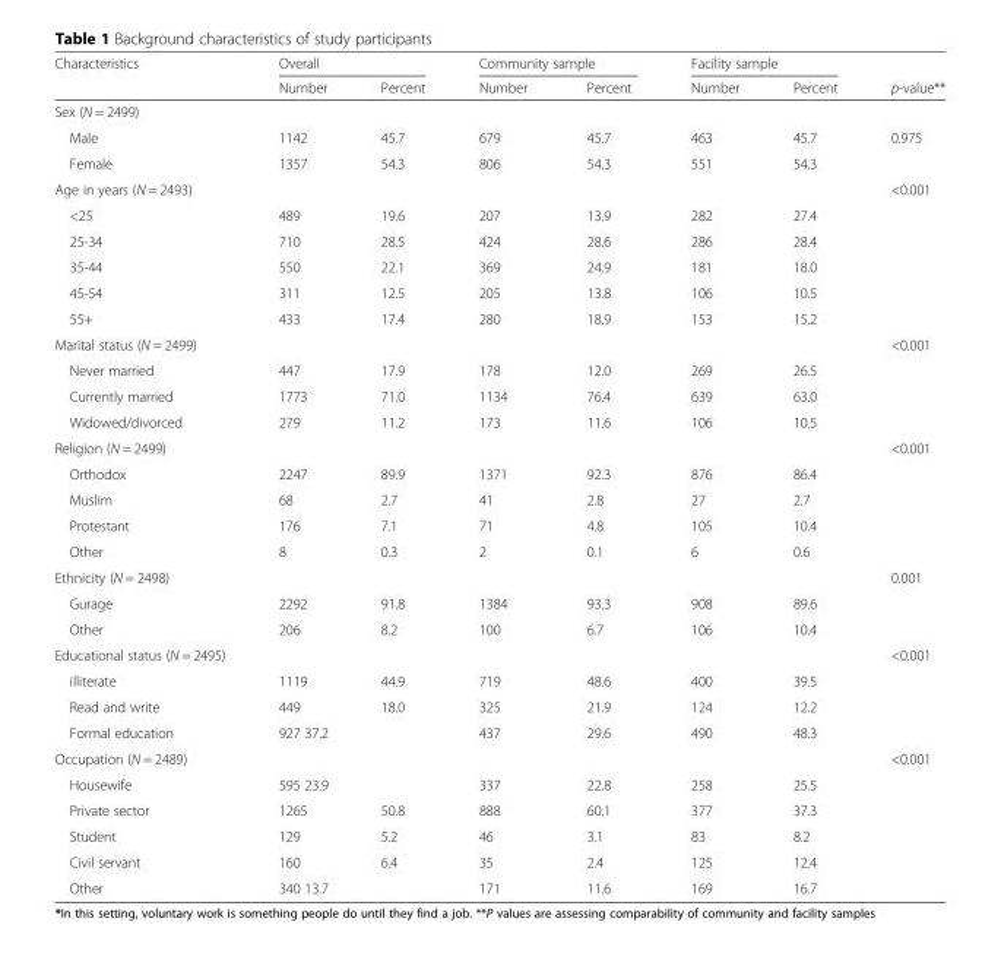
<table><thead><tr><td rowspan="2">Characteristics</td><td colspan="2">Overall</td><td colspan="2">Community sample</td><td colspan="2">Facility sample</td><td rowspan="2">p-value**</td></tr><tr><td>Number</td><td>Percent</td><td>Number</td><td>Percent</td><td>Number</td><td>Percent</td></tr></thead><tbody><tr><td colspan="8">Sex (N = 2499)</td></tr><tr><td>Male</td><td>1142</td><td>45.7</td><td>679</td><td>45.7</td><td>463</td><td>45.7</td><td>0.975</td></tr><tr><td>Female</td><td>1357</td><td>54.3</td><td>806</td><td>54.3</td><td>551</td><td>54.3</td><td></td></tr><tr><td>Age in years (N = 2493)</td><td></td><td></td><td></td><td></td><td></td><td></td><td>&lt;0.001</td></tr><tr><td>&lt;25</td><td>489</td><td>19.6</td><td>207</td><td>13.9</td><td>282</td><td>27.4</td><td></td></tr><tr><td>25-34</td><td>710</td><td>28.5</td><td>424</td><td>28.6</td><td>286</td><td>28.4</td><td></td></tr><tr><td>35-44</td><td>550</td><td>22.1</td><td>369</td><td>24.9</td><td>181</td><td>18.0</td><td></td></tr><tr><td>45-54</td><td>311</td><td>12.5</td><td>205</td><td>13.8</td><td>106</td><td>10.5</td><td></td></tr><tr><td>55+</td><td>433</td><td>17.4</td><td>280</td><td>18.9</td><td>153</td><td>15.2</td><td></td></tr><tr><td>Marital status (N = 2499)</td><td></td><td></td><td></td><td></td><td></td><td></td><td>&lt;0.001</td></tr><tr><td>Never married</td><td>447</td><td>17.9</td><td>178</td><td>12.0</td><td>269</td><td>26.5</td><td></td></tr><tr><td>Currently married</td><td>1773</td><td>71.0</td><td>1134</td><td>76.4</td><td>639</td><td>63.0</td><td></td></tr><tr><td>Widowed/divorced</td><td>279</td><td>11.2</td><td>173</td><td>11.6</td><td>106</td><td>10.5</td><td></td></tr><tr><td>Religion (N = 2499)</td><td></td><td></td><td></td><td></td><td></td><td></td><td>&lt;0.001</td></tr><tr><td>Orthodox</td><td>2247</td><td>89.9</td><td>1371</td><td>92.3</td><td>876</td><td>86.4</td><td></td></tr><tr><td>Muslim</td><td>68</td><td>2.7</td><td>41</td><td>2.8</td><td>27</td><td>2.7</td><td></td></tr><tr><td>Protestant</td><td>176</td><td>7.1</td><td>71</td><td>4.8</td><td>105</td><td>10.4</td><td></td></tr><tr><td>Other</td><td>8</td><td>0.3</td><td>2</td><td>0.1</td><td>6</td><td>0.6</td><td></td></tr><tr><td>Ethnicity (N = 2498)</td><td></td><td></td><td></td><td></td><td></td><td></td><td>0.001</td></tr><tr><td>Gurage</td><td>2292</td><td>91.8</td><td>1384</td><td>93.3</td><td>908</td><td>89.6</td><td></td></tr><tr><td>Other</td><td>206</td><td>8.2</td><td>100</td><td>6.7</td><td>106</td><td>10.4</td><td></td></tr><tr><td>Educational status (N = 2495)</td><td></td><td></td><td></td><td></td><td></td><td></td><td>&lt;0.001</td></tr><tr><td>illiterate</td><td>1119</td><td>44.9</td><td>719</td><td>48.6</td><td>400</td><td>39.5</td><td></td></tr><tr><td>Read and write</td><td>449</td><td>18.0</td><td>325</td><td>21.9</td><td>124</td><td>12.2</td><td></td></tr><tr><td>Formal education</td><td colspan="2">927 37.2</td><td>437</td><td>29.6</td><td>490</td><td>48.3</td><td></td></tr><tr><td>Occupation (N = 2489)</td><td></td><td></td><td></td><td></td><td></td><td></td><td>&lt;0.001</td></tr><tr><td>Housewife</td><td colspan="2">595 23.9</td><td>337</td><td>22.8</td><td>258</td><td>25.5</td><td></td></tr><tr><td>Private sector</td><td>1265</td><td>50.8</td><td>888</td><td>60.1</td><td>377</td><td>37.3</td><td></td></tr><tr><td>Student</td><td>129</td><td>5.2</td><td>46</td><td>3.1</td><td>83</td><td>8.2</td><td></td></tr><tr><td>Civil servant</td><td>160</td><td>6.4</td><td>35</td><td>2.4</td><td>125</td><td>12.4</td><td></td></tr><tr><td>Other</td><td colspan="2">340 13.7</td><td>171</td><td>11.6</td><td>169</td><td>16.7</td><td></td></tr></tbody></table>